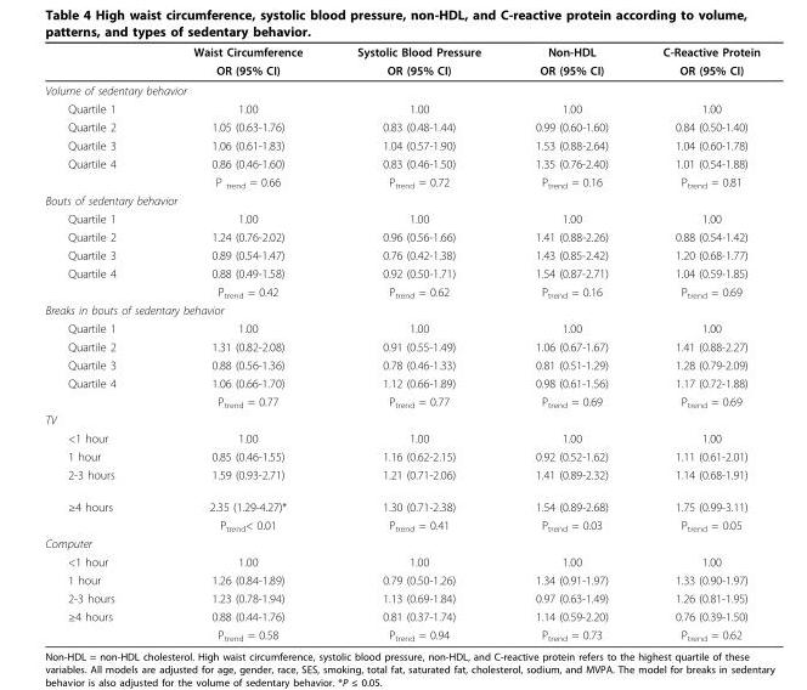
<table><thead><tr><td rowspan="2"></td><td rowspan="2">Waist Circumference OR (95% CI)</td><td rowspan="2">Systolic Blood Pressure OR (95% CI)</td><td rowspan="2">Non-HDL OR (95% CI)</td><td rowspan="2">C-Reactive Protein OR (95% CI)</td></tr><tr></tr></thead><tbody><tr><td colspan="5">Volume of sedentary behavior</td></tr><tr><td>Quartile 1</td><td>1.00</td><td>1.00</td><td>1.00</td><td>1.00</td></tr><tr><td>Quartile 2</td><td>1.05 (0.63-1.76)</td><td>0.83 (0.48-1.44)</td><td>0.99 (0.60-1.60)</td><td>0.84 (0.50-1.40)</td></tr><tr><td>Quartile 3</td><td>1.06 (0.61-1.83)</td><td>1.04 (0.57-1.90)</td><td>1.53 (0.88-2.64)</td><td>1.04 (0.60-1.78)</td></tr><tr><td rowspan="2">Quartile 4</td><td>0.86 (0.46-1.60)</td><td>0.83 (0.46-1.50)</td><td>1.35 (0.76-2.40)</td><td>1.01 (0.54-1.88)</td></tr><tr><td>P <sub>trend</sub> = 0.66</td><td>P<sub>trend</sub> = 0.72</td><td>P<sub>trend</sub> = 0.16</td><td>P<sub>trend</sub> = 0.81</td></tr><tr><td colspan="5">Bouts of sedentary behavior</td></tr><tr><td>Quartile 1</td><td>1.00</td><td>1.00</td><td>1.00</td><td>1.00</td></tr><tr><td>Quartile 2</td><td>1.24 (0.76-2.02)</td><td>0.96 (0.56-1.66)</td><td>1.41 (0.88-2.26)</td><td>0.88 (0.54-1.42)</td></tr><tr><td>Quartile 3</td><td>0.89 (0.54-1.47)</td><td>0.76 (0.42-1.38)</td><td>1.43 (0.85-2.42)</td><td>1.20 (0.68-1.77)</td></tr><tr><td rowspan="2">Quartile 4</td><td>0.88 (0.49-1.58)</td><td>0.92 (0.50-1.71)</td><td>1.54 (0.87-2.71)</td><td>1.04 (0.59-1.85)</td></tr><tr><td>P<sub>trend</sub> = 0.42</td><td>P<sub>trend</sub> = 0.62</td><td>P<sub>trend</sub> = 0.16</td><td>P<sub>trend</sub> = 0.69</td></tr><tr><td colspan="5">Breaks in bouts of sedentary behavior</td></tr><tr><td>Quartile 1</td><td>1.00</td><td>1.00</td><td>1.00</td><td>1.00</td></tr><tr><td>Quartile 2</td><td>1.31 (0.82-2.08)</td><td>0.91 (0.55-1.49)</td><td>1.06 (0.67-1.67)</td><td>1.41 (0.88-2.27)</td></tr><tr><td>Quartile 3</td><td>0.88 (0.56-1.36)</td><td>0.78 (0.46-1.33)</td><td>0.81 (0.51-1.29)</td><td>1.28 (0.79-2.09)</td></tr><tr><td rowspan="2">Quartile 4</td><td>1.06 (0.66-1.70)</td><td>1.12 (0.66-1.89)</td><td>0.98 (0.61-1.56)</td><td>1.17 (0.72-1.88)</td></tr><tr><td>P<sub>trend</sub> = 0.77</td><td>P<sub>trend</sub> = 0.77</td><td>P<sub>trend</sub> = 0.69</td><td>P<sub>trend</sub> = 0.69</td></tr><tr><td colspan="5">TV</td></tr><tr><td>&lt;1 hour</td><td>1.00</td><td>1.00</td><td>1.00</td><td>1.00</td></tr><tr><td>1 hour</td><td>0.85 (0.46-1.55)</td><td>1.16 (0.62-2.15)</td><td>0.92 (0.52-1.62)</td><td>1.11 (0.61-2.01)</td></tr><tr><td>2-3 hours</td><td>1.59 (0.93-2.71)</td><td>1.21 (0.71-2.06)</td><td>1.41 (0.89-2.32)</td><td>1.14 (0.68-1.91)</td></tr><tr><td rowspan="2">≥4 hours</td><td>2.35 (1.29-4.27)*</td><td>1.30 (0.71-2.38)</td><td>1.54 (0.89-2.68)</td><td>1.75 (0.99-3.11)</td></tr><tr><td>P<sub>trend</sub>&lt; 0.01</td><td>P<sub>trend</sub> = 0.41</td><td>P<sub>trend</sub> = 0.03</td><td>P<sub>trend</sub> = 0.05</td></tr><tr><td colspan="5">Computer</td></tr><tr><td>&lt;1 hour</td><td>1.00</td><td>1.00</td><td>1.00</td><td>1.00</td></tr><tr><td>1 hour</td><td>1.26 (0.84-1.89)</td><td>0.79 (0.50-1.26)</td><td>1.34 (0.91-1.97)</td><td>1.33 (0.90-1.97)</td></tr><tr><td>2-3 hours</td><td>1.23 (0.78-1.94)</td><td>1.13 (0.69-1.84)</td><td>0.97 (0.63-1.49)</td><td>1.26 (0.81-1.95)</td></tr><tr><td rowspan="2">≥4 hours</td><td>0.88 (0.44-1.76)</td><td>0.81 (0.37-1.74)</td><td>1.14 (0.59-2.20)</td><td>0.76 (0.39-1.50)</td></tr><tr><td>P<sub>trend</sub> = 0.58</td><td>P<sub>trend</sub> = 0.94</td><td>P<sub>trend</sub> = 0.73</td><td>P<sub>trend</sub> = 0.62</td></tr></tbody></table>